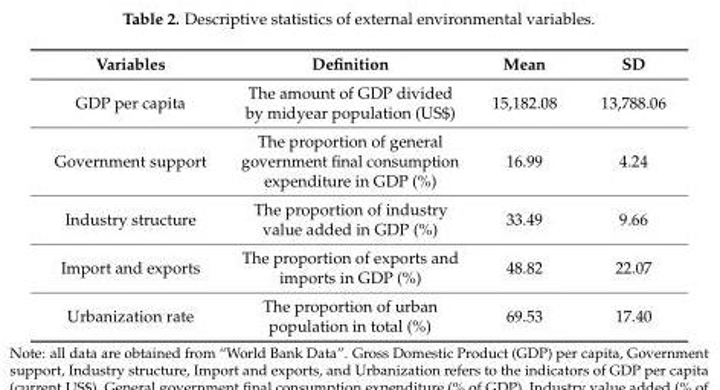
<table><thead><tr><td>Variables</td><td>Definition</td><td>Mean</td><td>SD</td></tr></thead><tbody><tr><td>GDP per capita</td><td>The amount of GDP divided by midyear population (US$)</td><td>15,182.08</td><td>13,788.06</td></tr><tr><td>Government support</td><td>The proportion of general government final consumption expenditure in GDP (%)</td><td>16.99</td><td>4.24</td></tr><tr><td>Industry structure</td><td>The proportion of industry value added in GDP (%)</td><td>33.49</td><td>9.66</td></tr><tr><td>Import and exports</td><td>The proportion of exports and imports in GDP (%)</td><td>48.82</td><td>22.07</td></tr><tr><td>Urbanization rate</td><td>The proportion of urban population in total (%)</td><td>69.53</td><td>17.40</td></tr></tbody></table>